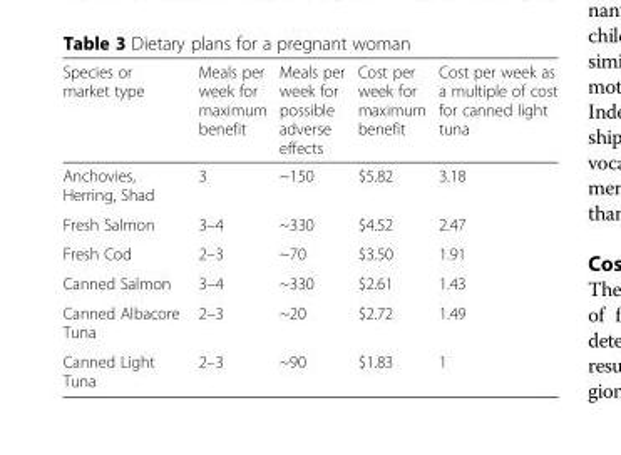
<table><thead><tr><td>Species or market type</td><td>Meals per week for maximum benefit</td><td>Meals per week for possible adverse effects</td><td>Cost per week for maximum benefit</td><td>Cost per week as a multiple of cost for canned light tuna</td></tr></thead><tbody><tr><td>Anchovies, Herring, Shad</td><td>3</td><td>~150</td><td>$5.82</td><td>3.18</td></tr><tr><td>Fresh Salmon</td><td>3–4</td><td>~330</td><td>$4.52</td><td>2.47</td></tr><tr><td>Fresh Cod</td><td>2–3</td><td>~70</td><td>$3.50</td><td>1.91</td></tr><tr><td>Canned Salmon</td><td>3–4</td><td>~330</td><td>$2.61</td><td>1.43</td></tr><tr><td>Canned Albacore Tuna</td><td>2–3</td><td>~20</td><td>$2.72</td><td>1.49</td></tr><tr><td>Canned Light Tuna</td><td>2–3</td><td>~90</td><td>$1.83</td><td>1</td></tr></tbody></table>